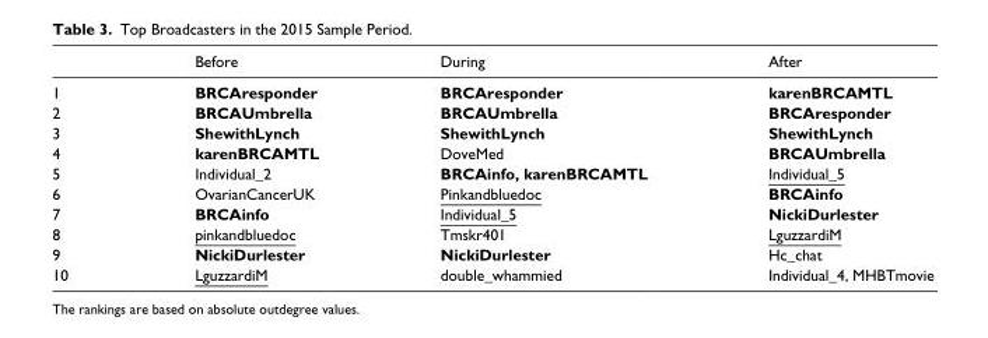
<table><thead><tr><td></td><td>Before</td><td>During</td><td>After</td></tr></thead><tbody><tr><td>1</td><td>BRCAresponder</td><td>BRCAresponder</td><td>karenBRCAMTL</td></tr><tr><td>2</td><td>BRCAUmbrella</td><td>BRCAUmbrella</td><td>BRCAresponder</td></tr><tr><td>3</td><td>ShewithLynch</td><td>ShewithLynch</td><td>ShewithLynch</td></tr><tr><td>4</td><td>karenBRCAMTL</td><td>DoveMed</td><td>BRCAUmbrella</td></tr><tr><td>5</td><td>Individual_2</td><td>BRCAinfo, karenBRCAMTL</td><td>Individual_5</td></tr><tr><td>6</td><td>OvarianCancerUK</td><td>Pinkandbluedoc</td><td>BRCAinfo</td></tr><tr><td>7</td><td>BRCAinfo</td><td>Individual_5</td><td>NickiDurlester</td></tr><tr><td>8</td><td>pinkandbluedoc</td><td>Tmskr401</td><td>LguzzardiM</td></tr><tr><td>9</td><td>NickiDurlester</td><td>NickiDurlester</td><td>Hc_chat</td></tr><tr><td>10</td><td>LguzzardiM</td><td>double_whammied</td><td>Individual_4, MHBTmovie</td></tr></tbody></table>